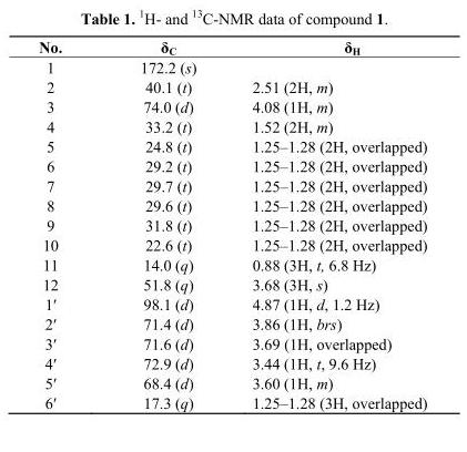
<table><thead><tr><td>No.</td><td>δ<sub>C</sub></td><td>δ<sub>H</sub></td></tr></thead><tbody><tr><td>1</td><td>172.2 (s)</td><td></td></tr><tr><td>2</td><td>40.1 (t)</td><td>2.51 (2H, m)</td></tr><tr><td>3</td><td>74.0 (d)</td><td>4.08 (1H, m)</td></tr><tr><td>4</td><td>33.2 (t)</td><td>1.52 (2H, m)</td></tr><tr><td>5</td><td>24.8 (t)</td><td>1.25–1.28 (2H, overlapped)</td></tr><tr><td>6</td><td>29.2 (t)</td><td>1.25–1.28 (2H, overlapped)</td></tr><tr><td>7</td><td>29.7 (t)</td><td>1.25–1.28 (2H, overlapped)</td></tr><tr><td>8</td><td>29.6 (t)</td><td>1.25–1.28 (2H, overlapped)</td></tr><tr><td>9</td><td>31.8 (t)</td><td>1.25–1.28 (2H, overlapped)</td></tr><tr><td>10</td><td>22.6 (t)</td><td>1.25–1.28 (2H, overlapped)</td></tr><tr><td>11</td><td>14.0 (q)</td><td>0.88 (3H, t, 6.8 Hz)</td></tr><tr><td>12</td><td>51.8 (q)</td><td>3.68 (3H, s)</td></tr><tr><td>1′</td><td>98.1 (d)</td><td>4.87 (1H, d, 1.2 Hz)</td></tr><tr><td>2′</td><td>71.4 (d)</td><td>3.86 (1H, brs)</td></tr><tr><td>3′</td><td>71.6 (d)</td><td>3.69 (1H, overlapped)</td></tr><tr><td>4′</td><td>72.9 (d)</td><td>3.44 (1H, t, 9.6 Hz)</td></tr><tr><td>5′</td><td>68.4 (d)</td><td>3.60 (1H, m)</td></tr><tr><td>6′</td><td>17.3 (q)</td><td>1.25–1.28 (3H, overlapped)</td></tr></tbody></table>